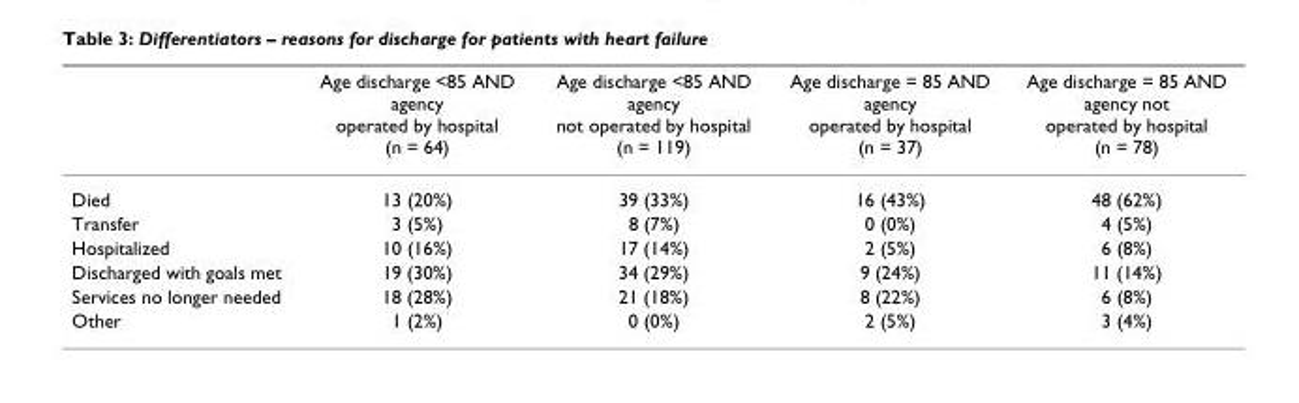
<table><thead><tr><td></td><td>Age discharge &lt;85 AND agency operated by hospital (n = 64)</td><td>Age discharge &lt;85 AND agency not operated by hospital (n = 119)</td><td>Age discharge = 85 AND agency operated by hospital (n = 37)</td><td>Age discharge = 85 AND agency not operated by hospital (n = 78)</td></tr></thead><tbody><tr><td>Died</td><td>13 (20%)</td><td>39 (33%)</td><td>16 (43%)</td><td>48 (62%)</td></tr><tr><td>Transfer</td><td>3 (5%)</td><td>8 (7%)</td><td>0 (0%)</td><td>4 (5%)</td></tr><tr><td>Hospitalized</td><td>10 (16%)</td><td>17 (14%)</td><td>2 (5%)</td><td>6 (8%)</td></tr><tr><td>Discharged with goals met</td><td>19 (30%)</td><td>34 (29%)</td><td>9 (24%)</td><td>11 (14%)</td></tr><tr><td>Services no longer needed</td><td>18 (28%)</td><td>21 (18%)</td><td>8 (22%)</td><td>6 (8%)</td></tr><tr><td>Other</td><td>1 (2%)</td><td>0 (0%)</td><td>2 (5%)</td><td>3 (4%)</td></tr></tbody></table>